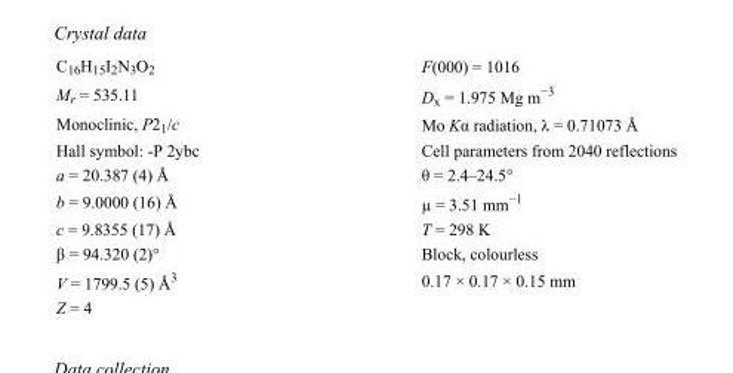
<table><tbody><tr><td>C<sub>16</sub>H<sub>15</sub>I<sub>2</sub>N<sub>3</sub>O<sub>2</sub></td><td>F(000) = 1016</td></tr><tr><td>M<sub>r</sub> = 535.11</td><td>D<sub>x</sub> = 1.975 Mg m<sup>−3</sup></td></tr><tr><td>Monoclinic, P2<sub>1</sub>/c</td><td>Mo Kα radiation, λ = 0.71073 Å</td></tr><tr><td>Hall symbol: -P 2ybc</td><td>Cell parameters from 2040 reflections</td></tr><tr><td>a = 20.387 (4) Å</td><td>θ = 2.4–24.5°</td></tr><tr><td>b = 9.0000 (16) Å</td><td>µ = 3.51 mm<sup>−1</sup></td></tr><tr><td>c = 9.8355 (17) Å</td><td>T = 298 K</td></tr><tr><td>β = 94.320 (2)°</td><td>Block, colourless</td></tr><tr><td>V = 1799.5 (5) Å<sup>3</sup></td><td>0.17 × 0.17 × 0.15 mm</td></tr><tr><td>Z = 4</td><td></td></tr></tbody></table>